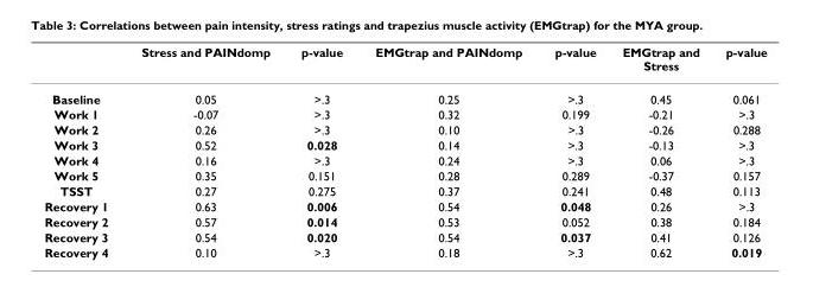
<table><thead><tr><td></td><td>Stress and PAINdomp</td><td>p-value</td><td>EMGtrap and PAINdomp</td><td>p-value</td><td>EMGtrap and Stress</td><td>p-value</td></tr></thead><tbody><tr><td>Baseline</td><td>0.05</td><td>&gt;.3</td><td>0.25</td><td>&gt;.3</td><td>0.45</td><td>0.061</td></tr><tr><td>Work 1</td><td>-0.07</td><td>&gt;.3</td><td>0.32</td><td>0.199</td><td>-0.21</td><td>&gt;.3</td></tr><tr><td>Work 2</td><td>0.26</td><td>&gt;.3</td><td>0.10</td><td>&gt;.3</td><td>-0.26</td><td>0.288</td></tr><tr><td>Work 3</td><td>0.52</td><td>0.028</td><td>0.14</td><td>&gt;.3</td><td>-0.13</td><td>&gt;.3</td></tr><tr><td>Work 4</td><td>0.16</td><td>&gt;.3</td><td>0.24</td><td>&gt;.3</td><td>0.06</td><td>&gt;.3</td></tr><tr><td>Work 5</td><td>0.35</td><td>0.151</td><td>0.28</td><td>0.289</td><td>-0.37</td><td>0.157</td></tr><tr><td>TSST</td><td>0.27</td><td>0.275</td><td>0.37</td><td>0.241</td><td>0.48</td><td>0.113</td></tr><tr><td>Recovery 1</td><td>0.63</td><td>0.006</td><td>0.54</td><td>0.048</td><td>0.26</td><td>&gt;.3</td></tr><tr><td>Recovery 2</td><td>0.57</td><td>0.014</td><td>0.53</td><td>0.052</td><td>0.38</td><td>0.184</td></tr><tr><td>Recovery 3</td><td>0.54</td><td>0.020</td><td>0.54</td><td>0.037</td><td>0.41</td><td>0.126</td></tr><tr><td>Recovery 4</td><td>0.10</td><td>&gt;.3</td><td>0.18</td><td>&gt;.3</td><td>0.62</td><td>0.019</td></tr></tbody></table>